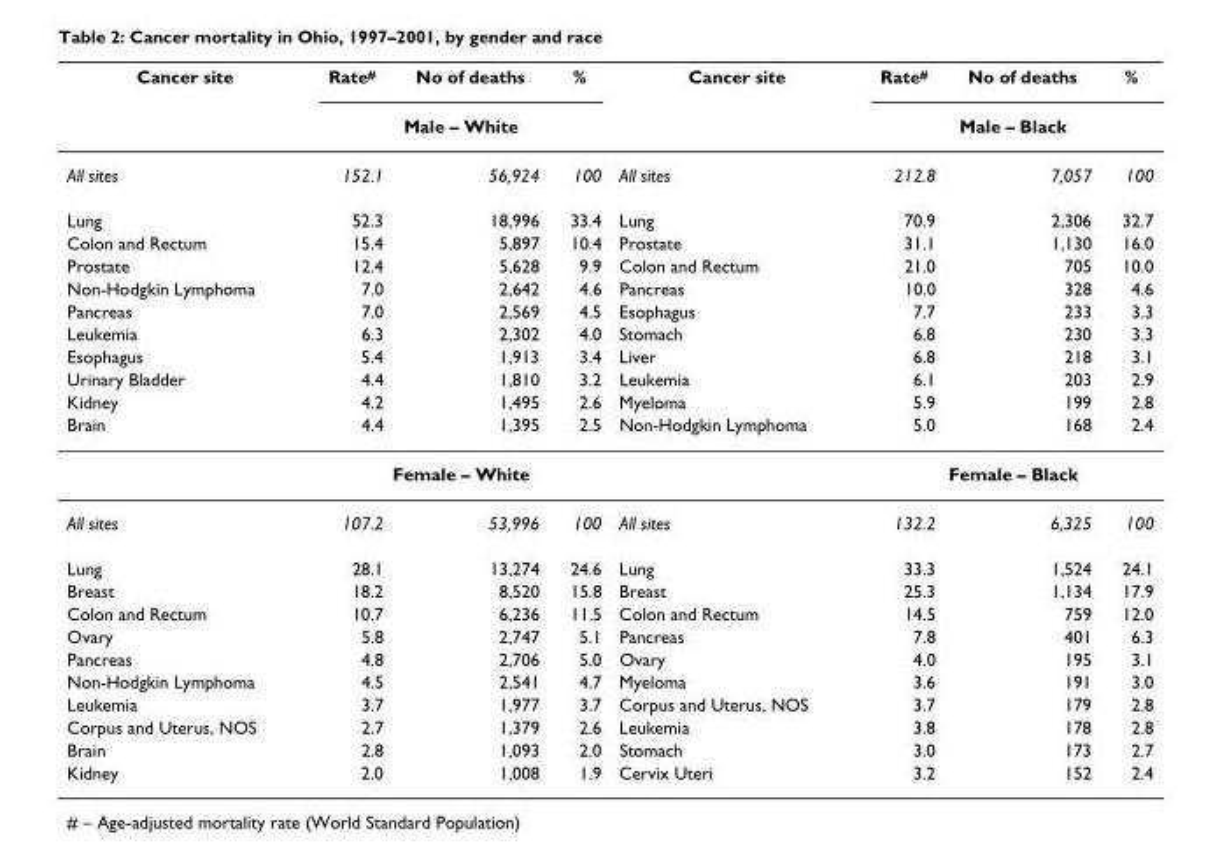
<table><thead><tr><td rowspan="2">Cancer site</td><td>Rate#</td><td>No of deaths</td><td>%</td><td rowspan="2">Cancer site</td><td>Rate#</td><td>No of deaths</td><td>%</td></tr><tr><td colspan="3">Male – White</td><td colspan="3">Male – Black</td></tr></thead><tbody><tr><td>All sites</td><td>152.1</td><td>56,924</td><td>100</td><td>All sites</td><td>212.8</td><td>7,057</td><td>100</td></tr><tr><td>Lung</td><td>52.3</td><td>18,996</td><td>33.4</td><td>Lung</td><td>70.9</td><td>2,306</td><td>32.7</td></tr><tr><td>Colon and Rectum</td><td>15.4</td><td>5,897</td><td>10.4</td><td>Prostate</td><td>31.1</td><td>1,130</td><td>16.0</td></tr><tr><td>Prostate</td><td>12.4</td><td>5,628</td><td>9.9</td><td>Colon and Rectum</td><td>21.0</td><td>705</td><td>10.0</td></tr><tr><td>Non-Hodgkin Lymphoma</td><td>7.0</td><td>2,642</td><td>4.6</td><td>Pancreas</td><td>10.0</td><td>328</td><td>4.6</td></tr><tr><td>Pancreas</td><td>7.0</td><td>2,569</td><td>4.5</td><td>Esophagus</td><td>7.7</td><td>233</td><td>3.3</td></tr><tr><td>Leukemia</td><td>6.3</td><td>2,302</td><td>4.0</td><td>Stomach</td><td>6.8</td><td>230</td><td>3.3</td></tr><tr><td>Esophagus</td><td>5.4</td><td>1,913</td><td>3.4</td><td>Liver</td><td>6.8</td><td>218</td><td>3.1</td></tr><tr><td>Urinary Bladder</td><td>4.4</td><td>1,810</td><td>3.2</td><td>Leukemia</td><td>6.1</td><td>203</td><td>2.9</td></tr><tr><td>Kidney</td><td>4.2</td><td>1,495</td><td>2.6</td><td>Myeloma</td><td>5.9</td><td>199</td><td>2.8</td></tr><tr><td rowspan="2">Brain</td><td>4.4</td><td>1,395</td><td>2.5</td><td>Non-Hodgkin Lymphoma</td><td>5.0</td><td>168</td><td>2.4</td></tr><tr><td colspan="3">Female – White</td><td></td><td colspan="3">Female – Black</td></tr><tr><td>All sites</td><td>107.2</td><td>53,996</td><td>100</td><td>All sites</td><td>132.2</td><td>6,325</td><td>100</td></tr><tr><td>Lung</td><td>28.1</td><td>13,274</td><td>24.6</td><td>Lung</td><td>33.3</td><td>1,524</td><td>24.1</td></tr><tr><td>Breast</td><td>18.2</td><td>8,520</td><td>15.8</td><td>Breast</td><td>25.3</td><td>1,134</td><td>17.9</td></tr><tr><td>Colon and Rectum</td><td>10.7</td><td>6,236</td><td>11.5</td><td>Colon and Rectum</td><td>14.5</td><td>759</td><td>12.0</td></tr><tr><td>Ovary</td><td>5.8</td><td>2,747</td><td>5.1</td><td>Pancreas</td><td>7.8</td><td>401</td><td>6.3</td></tr><tr><td>Pancreas</td><td>4.8</td><td>2,706</td><td>5.0</td><td>Ovary</td><td>4.0</td><td>195</td><td>3.1</td></tr><tr><td>Non-Hodgkin Lymphoma</td><td>4.5</td><td>2,541</td><td>4.7</td><td>Myeloma</td><td>3.6</td><td>191</td><td>3.0</td></tr><tr><td>Leukemia</td><td>3.7</td><td>1,977</td><td>3.7</td><td>Corpus and Uterus, NOS</td><td>3.7</td><td>179</td><td>2.8</td></tr><tr><td>Corpus and Uterus, NOS</td><td>2.7</td><td>1,379</td><td>2.6</td><td>Leukemia</td><td>3.8</td><td>178</td><td>2.8</td></tr><tr><td>Brain</td><td>2.8</td><td>1,093</td><td>2.0</td><td>Stomach</td><td>3.0</td><td>173</td><td>2.7</td></tr><tr><td>Kidney</td><td>2.0</td><td>1,008</td><td>1.9</td><td>Cervix Uteri</td><td>3.2</td><td>152</td><td>2.4</td></tr></tbody></table>